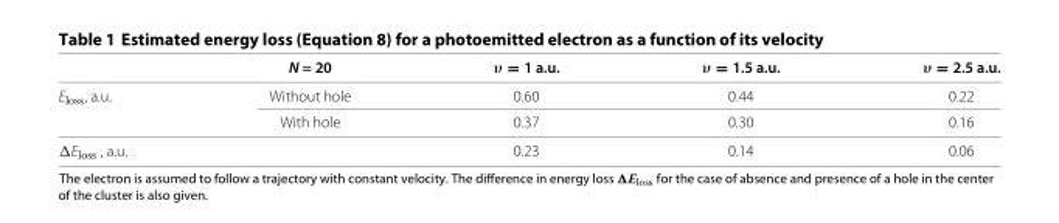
<table><thead><tr><td></td><td>N = 20</td><td>υ = 1 a.u.</td><td>υ = 1.5 a.u.</td><td>υ = 2.5 a.u.</td></tr></thead><tbody><tr><td rowspan="2">E<sub>loss</sub>, a.u.</td><td>Without hole</td><td>0.60</td><td>0.44</td><td>0.22</td></tr><tr><td>With hole</td><td>0.37</td><td>0.30</td><td>0.16</td></tr><tr><td>ΔE<sub>loss</sub> , a.u.</td><td></td><td>0.23</td><td>0.14</td><td>0.06</td></tr></tbody></table>